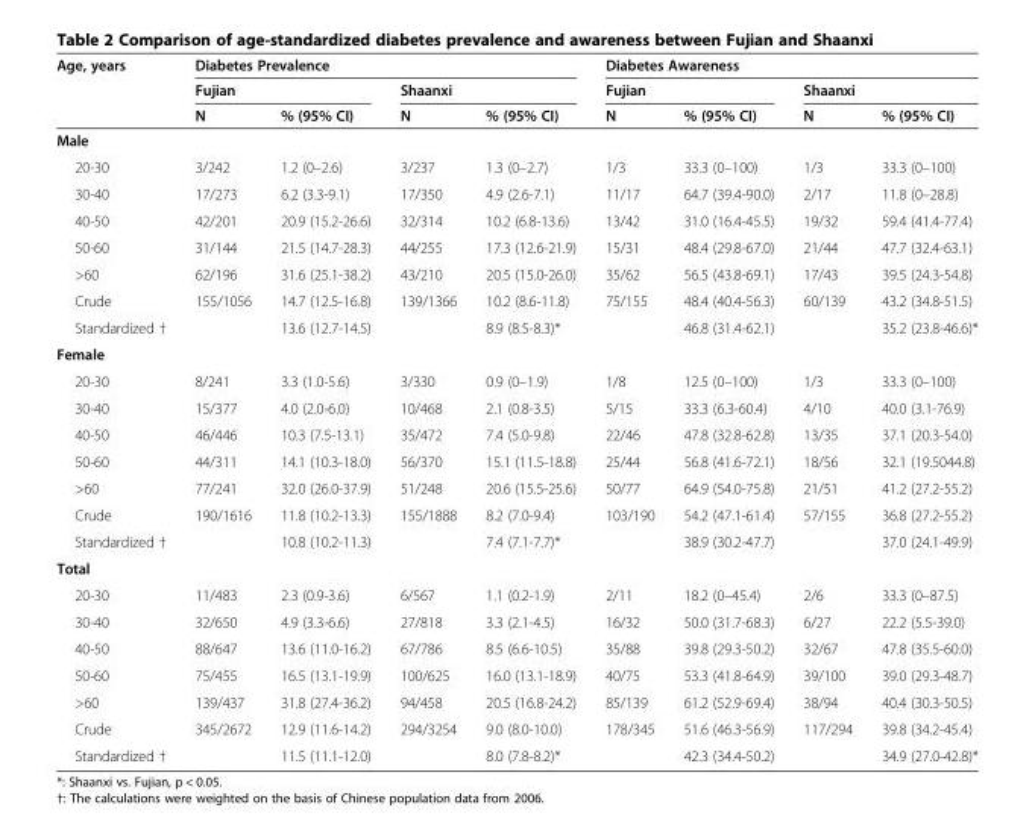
<table><thead><tr><td rowspan="3">Age, years</td><td colspan="4">Diabetes Prevalence</td><td colspan="4">Diabetes Awareness</td></tr><tr><td colspan="2">Fujian</td><td colspan="2">Shaanxi</td><td colspan="2">Fujian</td><td colspan="2">Shaanxi</td></tr><tr><td>N</td><td>% (95% CI)</td><td>N</td><td>% (95% CI)</td><td>N</td><td>% (95% CI)</td><td>N</td><td>% (95% CI)</td></tr></thead><tbody><tr><td colspan="9">Male</td></tr><tr><td>20-30</td><td>3/242</td><td>1.2 (0–2.6)</td><td>3/237</td><td>1.3 (0–2.7)</td><td>1/3</td><td>33.3 (0–100)</td><td>1/3</td><td>33.3 (0–100)</td></tr><tr><td>30-40</td><td>17/273</td><td>6.2 (3.3-9.1)</td><td>17/350</td><td>4.9 (2.6-7.1)</td><td>11/17</td><td>64.7 (39.4-90.0)</td><td>2/17</td><td>11.8 (0–28.8)</td></tr><tr><td>40-50</td><td>42/201</td><td>20.9 (15.2-26.6)</td><td>32/314</td><td>10.2 (6.8-13.6)</td><td>13/42</td><td>31.0 (16.4-45.5)</td><td>19/32</td><td>59.4 (41.4-77.4)</td></tr><tr><td>50-60</td><td>31/144</td><td>21.5 (14.7-28.3)</td><td>44/255</td><td>17.3 (12.6-21.9)</td><td>15/31</td><td>48.4 (29.8-67.0)</td><td>21/44</td><td>47.7 (32.4-63.1)</td></tr><tr><td>&gt;60</td><td>62/196</td><td>31.6 (25.1-38.2)</td><td>43/210</td><td>20.5 (15.0-26.0)</td><td>35/62</td><td>56.5 (43.8-69.1)</td><td>17/43</td><td>39.5 (24.3-54.8)</td></tr><tr><td>Crude</td><td>155/1056</td><td>14.7 (12.5-16.8)</td><td>139/1366</td><td>10.2 (8.6-11.8)</td><td>75/155</td><td>48.4 (40.4-56.3)</td><td>60/139</td><td>43.2 (34.8-51.5)</td></tr><tr><td>Standardized †</td><td></td><td>13.6 (12.7-14.5)</td><td></td><td>8.9 (8.5-8.3)*</td><td></td><td>46.8 (31.4-62.1)</td><td></td><td>35.2 (23.8-46.6)*</td></tr><tr><td colspan="9">Female</td></tr><tr><td>20-30</td><td>8/241</td><td>3.3 (1.0-5.6)</td><td>3/330</td><td>0.9 (0–1.9)</td><td>1/8</td><td>12.5 (0–100)</td><td>1/3</td><td>33.3 (0–100)</td></tr><tr><td>30-40</td><td>15/377</td><td>4.0 (2.0-6.0)</td><td>10/468</td><td>2.1 (0.8-3.5)</td><td>5/15</td><td>33.3 (6.3-60.4)</td><td>4/10</td><td>40.0 (3.1-76.9)</td></tr><tr><td>40-50</td><td>46/446</td><td>10.3 (7.5-13.1)</td><td>35/472</td><td>7.4 (5.0-9.8)</td><td>22/46</td><td>47.8 (32.8-62.8)</td><td>13/35</td><td>37.1 (20.3-54.0)</td></tr><tr><td>50-60</td><td>44/311</td><td>14.1 (10.3-18.0)</td><td>56/370</td><td>15.1 (11.5-18.8)</td><td>25/44</td><td>56.8 (41.6-72.1)</td><td>18/56</td><td>32.1 (19.5044.8)</td></tr><tr><td>&gt;60</td><td>77/241</td><td>32.0 (26.0-37.9)</td><td>51/248</td><td>20.6 (15.5-25.6)</td><td>50/77</td><td>64.9 (54.0-75.8)</td><td>21/51</td><td>41.2 (27.2-55.2)</td></tr><tr><td>Crude</td><td>190/1616</td><td>11.8 (10.2-13.3)</td><td>155/1888</td><td>8.2 (7.0-9.4)</td><td>103/190</td><td>54.2 (47.1-61.4)</td><td>57/155</td><td>36.8 (27.2-55.2)</td></tr><tr><td>Standardized †</td><td></td><td>10.8 (10.2-11.3)</td><td></td><td>7.4 (7.1-7.7)*</td><td></td><td>38.9 (30.2-47.7)</td><td></td><td>37.0 (24.1-49.9)</td></tr><tr><td colspan="9">Total</td></tr><tr><td>20-30</td><td>11/483</td><td>2.3 (0.9-3.6)</td><td>6/567</td><td>1.1 (0.2-1.9)</td><td>2/11</td><td>18.2 (0–45.4)</td><td>2/6</td><td>33.3 (0–87.5)</td></tr><tr><td>30-40</td><td>32/650</td><td>4.9 (3.3-6.6)</td><td>27/818</td><td>3.3 (2.1-4.5)</td><td>16/32</td><td>50.0 (31.7-68.3)</td><td>6/27</td><td>22.2 (5.5-39.0)</td></tr><tr><td>40-50</td><td>88/647</td><td>13.6 (11.0-16.2)</td><td>67/786</td><td>8.5 (6.6-10.5)</td><td>35/88</td><td>39.8 (29.3-50.2)</td><td>32/67</td><td>47.8 (35.5-60.0)</td></tr><tr><td>50-60</td><td>75/455</td><td>16.5 (13.1-19.9)</td><td>100/625</td><td>16.0 (13.1-18.9)</td><td>40/75</td><td>53.3 (41.8-64.9)</td><td>39/100</td><td>39.0 (29.3-48.7)</td></tr><tr><td>&gt;60</td><td>139/437</td><td>31.8 (27.4-36.2)</td><td>94/458</td><td>20.5 (16.8-24.2)</td><td>85/139</td><td>61.2 (52.9-69.4)</td><td>38/94</td><td>40.4 (30.3-50.5)</td></tr><tr><td>Crude</td><td>345/2672</td><td>12.9 (11.6-14.2)</td><td>294/3254</td><td>9.0 (8.0-10.0)</td><td>178/345</td><td>51.6 (46.3-56.9)</td><td>117/294</td><td>39.8 (34.2-45.4)</td></tr><tr><td>Standardized †</td><td></td><td>11.5 (11.1-12.0)</td><td></td><td>8.0 (7.8-8.2)*</td><td></td><td>42.3 (34.4-50.2)</td><td></td><td>34.9 (27.0-42.8)*</td></tr></tbody></table>